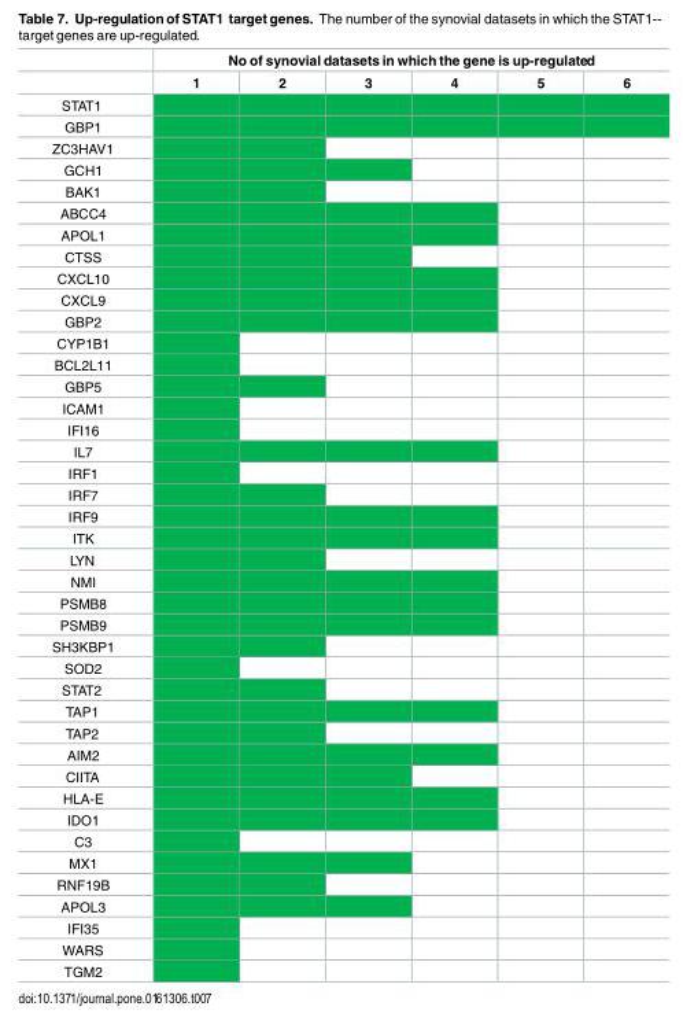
<table><thead><tr><td rowspan="2"></td><td colspan="6">No of synovial datasets in which the gene is up-regulated</td></tr><tr><td>1</td><td>2</td><td>3</td><td>4</td><td>5</td><td>6</td></tr></thead><tbody><tr><td colspan="7">STAT1</td></tr><tr><td colspan="7">GBP1</td></tr><tr><td colspan="7">ZC3HAV1</td></tr><tr><td colspan="7">GCH1</td></tr><tr><td colspan="7">BAK1</td></tr><tr><td colspan="7">ABCC4</td></tr><tr><td colspan="7">APOL1</td></tr><tr><td colspan="7">CTSS</td></tr><tr><td colspan="7">CXCL10</td></tr><tr><td colspan="7">CXCL9</td></tr><tr><td colspan="7">GBP2</td></tr><tr><td colspan="7">CYP1B1</td></tr><tr><td colspan="7">BCL2L11</td></tr><tr><td colspan="7">GBP5</td></tr><tr><td colspan="7">ICAM1</td></tr><tr><td colspan="7">IFI16</td></tr><tr><td colspan="7">IL7</td></tr><tr><td colspan="7">IRF1</td></tr><tr><td colspan="7">IRF7</td></tr><tr><td colspan="7">IRF9</td></tr><tr><td colspan="7">ITK</td></tr><tr><td colspan="7">LYN</td></tr><tr><td colspan="7">NMI</td></tr><tr><td colspan="7">PSMB8</td></tr><tr><td colspan="7">PSMB9</td></tr><tr><td colspan="7">SH3KBP1</td></tr><tr><td colspan="7">SOD2</td></tr><tr><td colspan="7">STAT2</td></tr><tr><td colspan="7">TAP1</td></tr><tr><td colspan="7">TAP2</td></tr><tr><td colspan="7">AIM2</td></tr><tr><td colspan="7">CIITA</td></tr><tr><td colspan="7">HLA-E</td></tr><tr><td colspan="7">IDO1</td></tr><tr><td colspan="7">C3</td></tr><tr><td colspan="7">MX1</td></tr><tr><td colspan="7">RNF19B</td></tr><tr><td colspan="7">APOL3</td></tr><tr><td colspan="7">IFI35</td></tr><tr><td colspan="7">WARS</td></tr><tr><td>TGM2</td><td></td><td></td><td></td><td></td><td></td><td></td></tr></tbody></table>